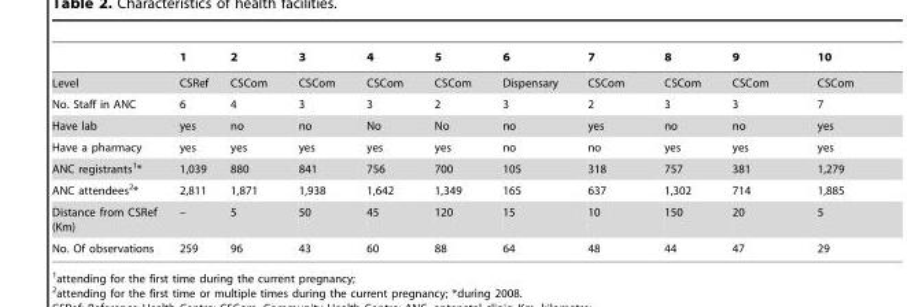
<table><thead><tr><td></td><td>1</td><td>2</td><td>3</td><td>4</td><td>5</td><td>6</td><td>7</td><td>8</td><td>9</td><td>10</td></tr></thead><tbody><tr><td>Level</td><td>CSRef</td><td>CSCom</td><td>CSCom</td><td>CSCom</td><td>CSCom</td><td>Dispensary</td><td>CSCom</td><td>CSCom</td><td>CSCom</td><td>CSCom</td></tr><tr><td>No. Staff in ANC</td><td>6</td><td>4</td><td>3</td><td>3</td><td>2</td><td>3</td><td>2</td><td>3</td><td>3</td><td>7</td></tr><tr><td>Have lab</td><td>yes</td><td>no</td><td>no</td><td>No</td><td>No</td><td>no</td><td>yes</td><td>no</td><td>no</td><td>yes</td></tr><tr><td>Have a pharmacy</td><td>yes</td><td>yes</td><td>yes</td><td>yes</td><td>yes</td><td>no</td><td>no</td><td>yes</td><td>yes</td><td>yes</td></tr><tr><td>ANC registrants<sup>1</sup>*</td><td>1,039</td><td>880</td><td>841</td><td>756</td><td>700</td><td>105</td><td>318</td><td>757</td><td>381</td><td>1,279</td></tr><tr><td>ANC attendees<sup>2</sup>*</td><td>2,811</td><td>1,871</td><td>1,938</td><td>1,642</td><td>1,349</td><td>165</td><td>637</td><td>1,302</td><td>714</td><td>1,885</td></tr><tr><td>Distance from CSRef (Km)</td><td>–</td><td>5</td><td>50</td><td>45</td><td>120</td><td>15</td><td>10</td><td>150</td><td>20</td><td>5</td></tr><tr><td>No. Of observations</td><td>259</td><td>96</td><td>43</td><td>60</td><td>88</td><td>64</td><td>48</td><td>44</td><td>47</td><td>29</td></tr></tbody></table>